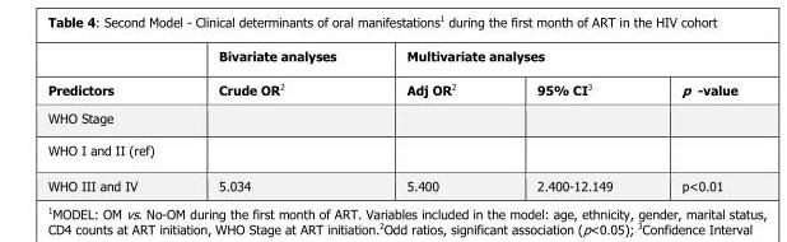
<table><thead><tr><td rowspan="2">Predictors</td><td rowspan="2">Bivariate analyses Crude OR<sup>2</sup></td><td colspan="3">Multivariate analyses</td></tr><tr><td>Adj OR<sup>2</sup></td><td>95% CI<sup>3</sup></td><td>p -value</td></tr></thead><tbody><tr><td colspan="5">WHO Stage</td></tr><tr><td colspan="5">WHO I and II (ref)</td></tr><tr><td>WHO III and IV</td><td>5.034</td><td>5.400</td><td>2.400-12.149</td><td>p&lt;0.01</td></tr></tbody></table>